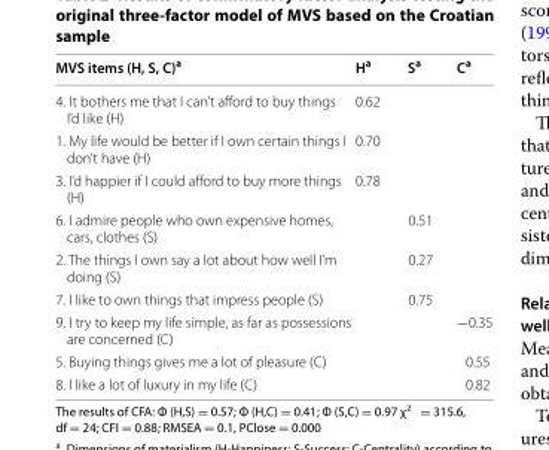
<table><thead><tr><td>MVS items (H, S, C)<sup>a</sup></td><td>H<sup>a</sup></td><td>S<sup>a</sup></td><td>C<sup>a</sup></td></tr></thead><tbody><tr><td>4. It bothers me that I can’t afford to buy things I’d like (H)</td><td>0.62</td><td></td><td></td></tr><tr><td>1. My life would be better if I own certain things I don’t have (H)</td><td>0.70</td><td></td><td></td></tr><tr><td>3. I’d happier if I could afford to buy more things (H)</td><td>0.78</td><td></td><td></td></tr><tr><td>6. I admire people who own expensive homes, cars, clothes (S)</td><td></td><td>0.51</td><td></td></tr><tr><td>2. The things I own say a lot about how well I’m doing (S)</td><td></td><td>0.27</td><td></td></tr><tr><td>7. I like to own things that impress people (S)</td><td></td><td>0.75</td><td></td></tr><tr><td>9. I try to keep my life simple, as far as possessions are concerned (C)</td><td></td><td></td><td>−0.35</td></tr><tr><td>5. Buying things gives me a lot of pleasure (C)</td><td></td><td></td><td>0.55</td></tr><tr><td>8. I like a lot of luxury in my life (C)</td><td></td><td></td><td>0.82</td></tr></tbody></table>